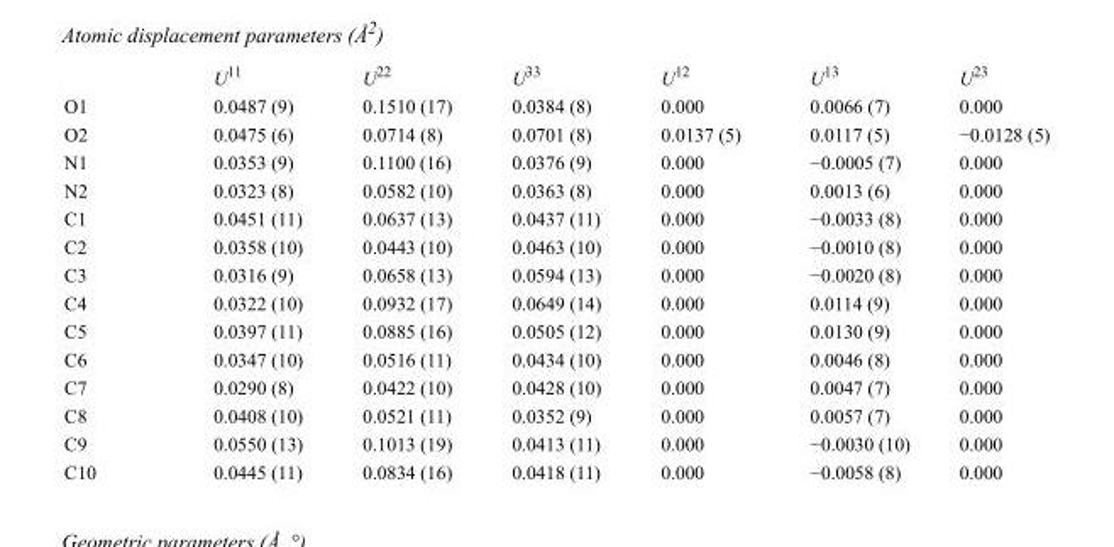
<table><thead><tr><td></td><td>U<sup>11</sup></td><td>U<sup>22</sup></td><td>U<sup>33</sup></td><td>U<sup>12</sup></td><td>U<sup>13</sup></td><td>U<sup>23</sup></td></tr></thead><tbody><tr><td>O1</td><td>0.0487 (9)</td><td>0.1510 (17)</td><td>0.0384 (8)</td><td>0.000</td><td>0.0066 (7)</td><td>0.000</td></tr><tr><td>O2</td><td>0.0475 (6)</td><td>0.0714 (8)</td><td>0.0701 (8)</td><td>0.0137 (5)</td><td>0.0117 (5)</td><td>−0.0128 (5)</td></tr><tr><td>N1</td><td>0.0353 (9)</td><td>0.1100 (16)</td><td>0.0376 (9)</td><td>0.000</td><td>−0.0005 (7)</td><td>0.000</td></tr><tr><td>N2</td><td>0.0323 (8)</td><td>0.0582 (10)</td><td>0.0363 (8)</td><td>0.000</td><td>0.0013 (6)</td><td>0.000</td></tr><tr><td>C1</td><td>0.0451 (11)</td><td>0.0637 (13)</td><td>0.0437 (11)</td><td>0.000</td><td>−0.0033 (8)</td><td>0.000</td></tr><tr><td>C2</td><td>0.0358 (10)</td><td>0.0443 (10)</td><td>0.0463 (10)</td><td>0.000</td><td>−0.0010 (8)</td><td>0.000</td></tr><tr><td>C3</td><td>0.0316 (9)</td><td>0.0658 (13)</td><td>0.0594 (13)</td><td>0.000</td><td>−0.0020 (8)</td><td>0.000</td></tr><tr><td>C4</td><td>0.0322 (10)</td><td>0.0932 (17)</td><td>0.0649 (14)</td><td>0.000</td><td>0.0114 (9)</td><td>0.000</td></tr><tr><td>C5</td><td>0.0397 (11)</td><td>0.0885 (16)</td><td>0.0505 (12)</td><td>0.000</td><td>0.0130 (9)</td><td>0.000</td></tr><tr><td>C6</td><td>0.0347 (10)</td><td>0.0516 (11)</td><td>0.0434 (10)</td><td>0.000</td><td>0.0046 (8)</td><td>0.000</td></tr><tr><td>C7</td><td>0.0290 (8)</td><td>0.0422 (10)</td><td>0.0428 (10)</td><td>0.000</td><td>0.0047 (7)</td><td>0.000</td></tr><tr><td>C8</td><td>0.0408 (10)</td><td>0.0521 (11)</td><td>0.0352 (9)</td><td>0.000</td><td>0.0057 (7)</td><td>0.000</td></tr><tr><td>C9</td><td>0.0550 (13)</td><td>0.1013 (19)</td><td>0.0413 (11)</td><td>0.000</td><td>−0.0030 (10)</td><td>0.000</td></tr><tr><td>C10</td><td>0.0445 (11)</td><td>0.0834 (16)</td><td>0.0418 (11)</td><td>0.000</td><td>−0.0058 (8)</td><td>0.000</td></tr></tbody></table>